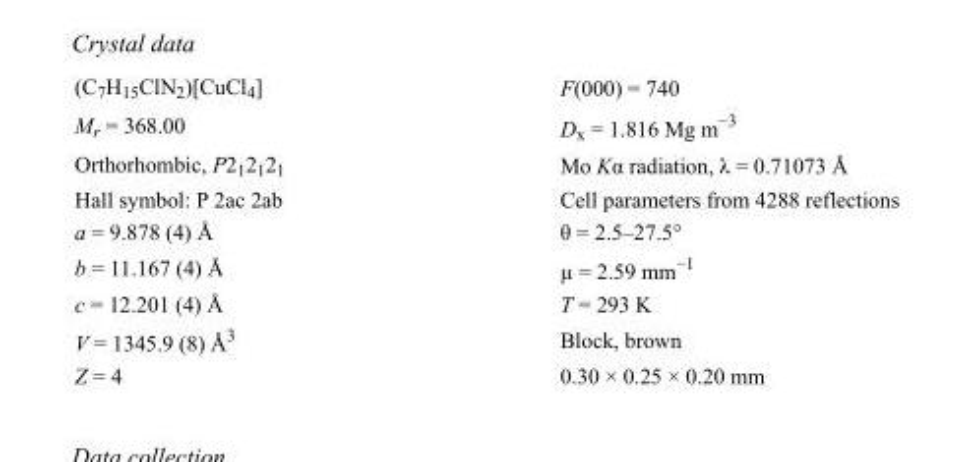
<table><tbody><tr><td>(C<sub>7</sub>H<sub>15</sub>ClN<sub>2</sub>)[CuCl<sub>4</sub>]</td><td>F(000) = 740</td></tr><tr><td>M<sub>r</sub> = 368.00</td><td>D<sub>x</sub> = 1.816 Mg m<sup>−3</sup></td></tr><tr><td>Orthorhombic, P2<sub>1</sub>2<sub>1</sub>2<sub>1</sub></td><td>Mo Kα radiation, λ = 0.71073 Å</td></tr><tr><td>Hall symbol: P 2ac 2ab</td><td>Cell parameters from 4288 reflections</td></tr><tr><td>a = 9.878 (4) Å</td><td>θ = 2.5–27.5°</td></tr><tr><td>b = 11.167 (4) Å</td><td>µ = 2.59 mm<sup>−1</sup></td></tr><tr><td>c = 12.201 (4) Å</td><td>T = 293 K</td></tr><tr><td>V = 1345.9 (8) Å<sup>3</sup></td><td>Block, brown</td></tr><tr><td>Z = 4</td><td>0.30 × 0.25 × 0.20 mm</td></tr></tbody></table>